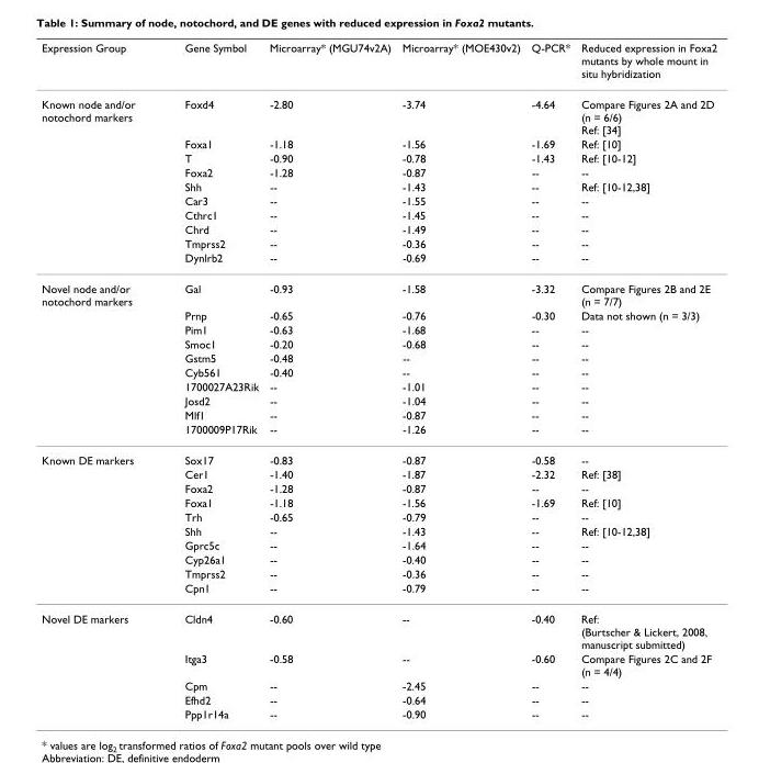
<table><thead><tr><td>Expression Group</td><td>Gene Symbol</td><td>Microarray* (MGU74v2A)</td><td>Microarray* (MOE430v2)</td><td>Q-PCR*</td><td>Reduced expression in Foxa2 mutants by whole mount in situ hybridization</td></tr></thead><tbody><tr><td rowspan="10">Known node and/or notochord markers</td><td>Foxd4</td><td>-2.80</td><td>-3.74</td><td>-4.64</td><td>Compare Figures 2A and 2D (n = 6/6) Ref: [34]</td></tr><tr><td>Foxa1</td><td>-1.18</td><td>-1.56</td><td>-1.69</td><td>Ref: [10]</td></tr><tr><td>T</td><td>-0.90</td><td>-0.78</td><td>-1.43</td><td>Ref: [10-12]</td></tr><tr><td>Foxa2</td><td>-1.28</td><td>-0.87</td><td>--</td><td>--</td></tr><tr><td>Shh</td><td>--</td><td>-1.43</td><td>--</td><td>Ref: [10-12,38]</td></tr><tr><td>Car3</td><td>--</td><td>-1.55</td><td>--</td><td>--</td></tr><tr><td>Cthrc1</td><td>--</td><td>-1.45</td><td>--</td><td>--</td></tr><tr><td>Chrd</td><td>--</td><td>-1.49</td><td>--</td><td>--</td></tr><tr><td>Tmprss2</td><td>--</td><td>-0.36</td><td>--</td><td>--</td></tr><tr><td>Dynlrb2</td><td>--</td><td>-0.69</td><td>--</td><td>--</td></tr><tr><td rowspan="10">Novel node and/or notochord markers</td><td>Gal</td><td>-0.93</td><td>-1.58</td><td>-3.32</td><td>Compare Figures 2B and 2E (n = 7/7)</td></tr><tr><td>Prnp</td><td>-0.65</td><td>-0.76</td><td>-0.30</td><td>Data not shown (n = 3/3)</td></tr><tr><td>Pim1</td><td>-0.63</td><td>-1.68</td><td>--</td><td>--</td></tr><tr><td>Smoc1</td><td>-0.20</td><td>-0.68</td><td>--</td><td>--</td></tr><tr><td>Gstm5</td><td>-0.48</td><td>--</td><td>--</td><td>--</td></tr><tr><td>Cyb561</td><td>-0.40</td><td>--</td><td>--</td><td>--</td></tr><tr><td>1700027A23Rik</td><td>--</td><td>-1.01</td><td>--</td><td>--</td></tr><tr><td>Josd2</td><td>--</td><td>-1.04</td><td>--</td><td>--</td></tr><tr><td>Mlf1</td><td>--</td><td>-0.87</td><td>--</td><td>--</td></tr><tr><td>1700009P17Rik</td><td>--</td><td>-1.26</td><td>--</td><td>--</td></tr><tr><td rowspan="10">Known DE markers</td><td>Sox17</td><td>-0.83</td><td>-0.87</td><td>-0.58</td><td>--</td></tr><tr><td>Cer1</td><td>-1.40</td><td>-1.87</td><td>-2.32</td><td>Ref: [38]</td></tr><tr><td>Foxa2</td><td>-1.28</td><td>-0.87</td><td>--</td><td>--</td></tr><tr><td>Foxa1</td><td>-1.18</td><td>-1.56</td><td>-1.69</td><td>Ref: [10]</td></tr><tr><td>Trh</td><td>-0.65</td><td>-0.79</td><td>--</td><td>--</td></tr><tr><td>Shh</td><td>--</td><td>-1.43</td><td>--</td><td>Ref: [10-12,38]</td></tr><tr><td>Gprc5c</td><td>--</td><td>-1.64</td><td>--</td><td>--</td></tr><tr><td>Cyp26a1</td><td>--</td><td>-0.40</td><td>--</td><td>--</td></tr><tr><td>Tmprss2</td><td>--</td><td>-0.36</td><td>--</td><td>--</td></tr><tr><td>Cpn1</td><td>--</td><td>-0.79</td><td>--</td><td>--</td></tr><tr><td rowspan="5">Novel DE markers</td><td>Cldn4</td><td>-0.60</td><td>--</td><td>-0.40</td><td>Ref: (Burtscher &amp; Lickert, 2008, manuscript submitted)</td></tr><tr><td>Itga3</td><td>-0.58</td><td>--</td><td>-0.60</td><td>Compare Figures 2C and 2F (n = 4/4)</td></tr><tr><td>Cpm</td><td>--</td><td>-2.45</td><td>--</td><td>--</td></tr><tr><td>Efhd2</td><td>--</td><td>-0.64</td><td>--</td><td>--</td></tr><tr><td>Ppp1r14a</td><td>--</td><td>-0.90</td><td>--</td><td>--</td></tr></tbody></table>